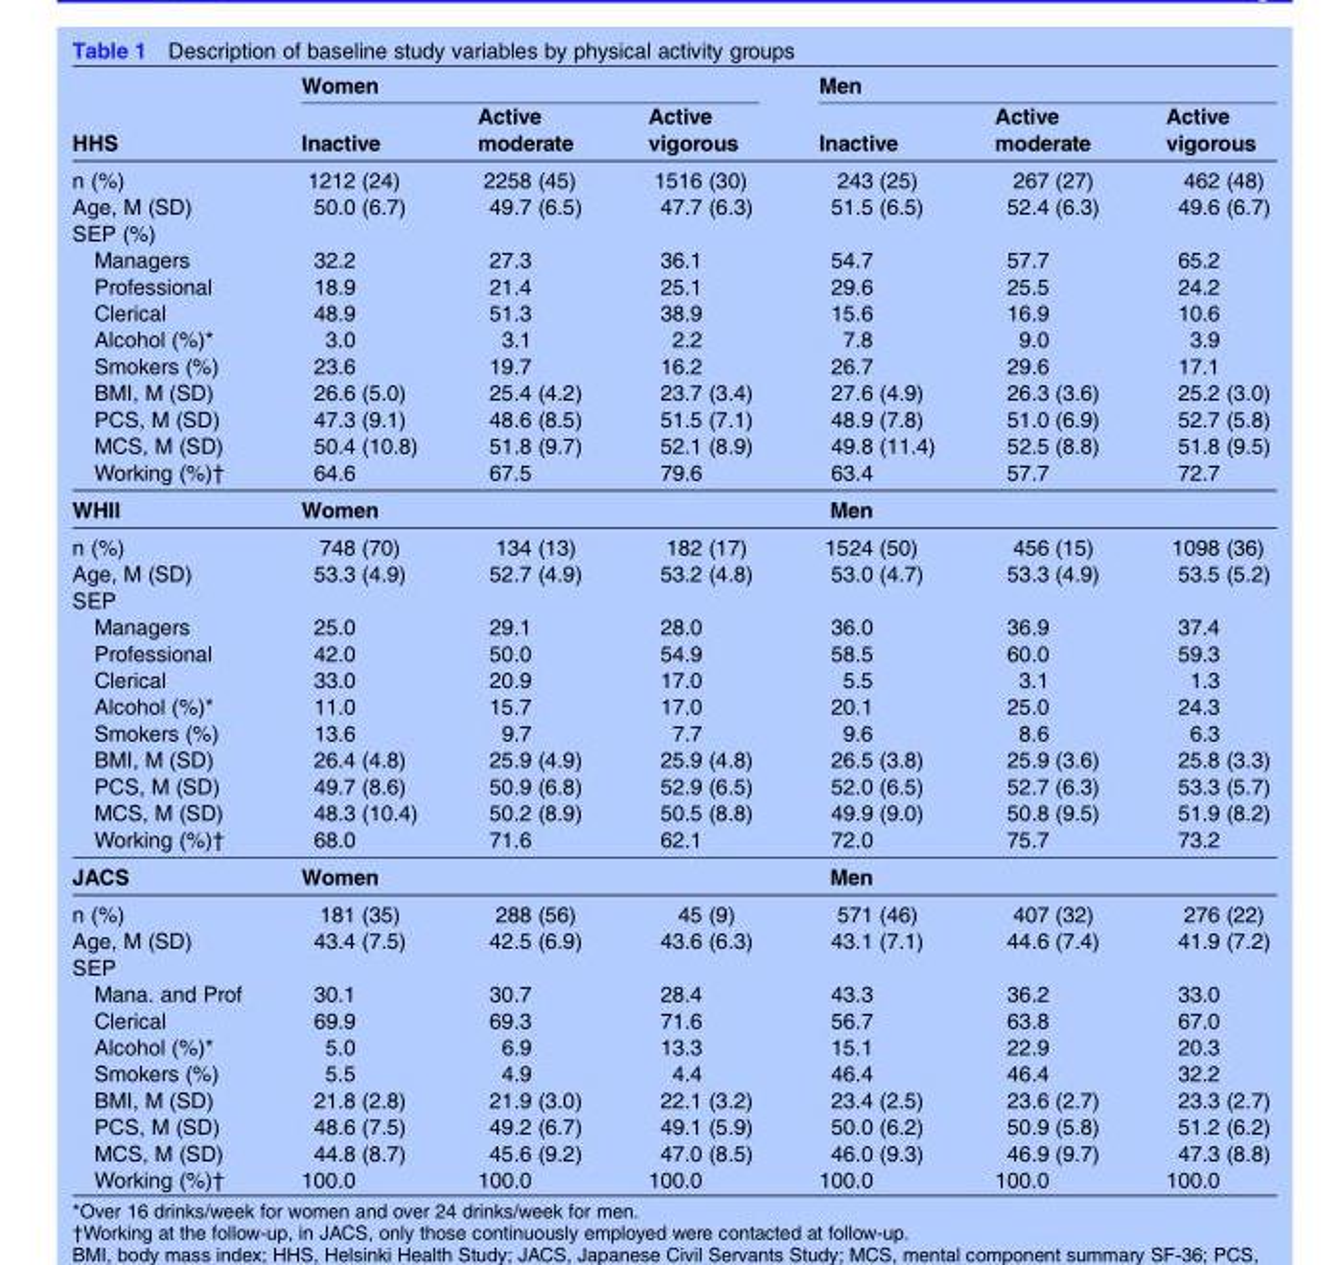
<table><thead><tr><td rowspan="2">HHS</td><td colspan="3">Women</td><td colspan="3">Men</td></tr><tr><td>Inactive</td><td>Active moderate</td><td>Active vigorous</td><td>Inactive</td><td>Active moderate</td><td>Active vigorous</td></tr></thead><tbody><tr><td>n (%)</td><td>1212 (24)</td><td>2258 (45)</td><td>1516 (30)</td><td>243 (25)</td><td>267 (27)</td><td>462 (48)</td></tr><tr><td>Age, M (SD)</td><td>50.0 (6.7)</td><td>49.7 (6.5)</td><td>47.7 (6.3)</td><td>51.5 (6.5)</td><td>52.4 (6.3)</td><td>49.6 (6.7)</td></tr><tr><td colspan="7">SEP (%)</td></tr><tr><td>Managers</td><td>32.2</td><td>27.3</td><td>36.1</td><td>54.7</td><td>57.7</td><td>65.2</td></tr><tr><td>Professional</td><td>18.9</td><td>21.4</td><td>25.1</td><td>29.6</td><td>25.5</td><td>24.2</td></tr><tr><td>Clerical</td><td>48.9</td><td>51.3</td><td>38.9</td><td>15.6</td><td>16.9</td><td>10.6</td></tr><tr><td>Alcohol (%)*</td><td>3.0</td><td>3.1</td><td>2.2</td><td>7.8</td><td>9.0</td><td>3.9</td></tr><tr><td>Smokers (%)</td><td>23.6</td><td>19.7</td><td>16.2</td><td>26.7</td><td>29.6</td><td>17.1</td></tr><tr><td>BMI, M (SD)</td><td>26.6 (5.0)</td><td>25.4 (4.2)</td><td>23.7 (3.4)</td><td>27.6 (4.9)</td><td>26.3 (3.6)</td><td>25.2 (3.0)</td></tr><tr><td>PCS, M (SD)</td><td>47.3 (9.1)</td><td>48.6 (8.5)</td><td>51.5 (7.1)</td><td>48.9 (7.8)</td><td>51.0 (6.9)</td><td>52.7 (5.8)</td></tr><tr><td>MCS, M (SD)</td><td>50.4 (10.8)</td><td>51.8 (9.7)</td><td>52.1 (8.9)</td><td>49.8 (11.4)</td><td>52.5 (8.8)</td><td>51.8 (9.5)</td></tr><tr><td>Working (%)†</td><td>64.6</td><td>67.5</td><td>79.6</td><td>63.4</td><td>57.7</td><td>72.7</td></tr><tr><td>WHII</td><td>Women</td><td></td><td></td><td>Men</td><td></td><td></td></tr><tr><td>n (%)</td><td>748 (70)</td><td>134 (13)</td><td>182 (17)</td><td>1524 (50)</td><td>456 (15)</td><td>1098 (36)</td></tr><tr><td>Age, M (SD)</td><td>53.3 (4.9)</td><td>52.7 (4.9)</td><td>53.2 (4.8)</td><td>53.0 (4.7)</td><td>53.3 (4.9)</td><td>53.5 (5.2)</td></tr><tr><td colspan="7">SEP</td></tr><tr><td>Managers</td><td>25.0</td><td>29.1</td><td>28.0</td><td>36.0</td><td>36.9</td><td>37.4</td></tr><tr><td>Professional</td><td>42.0</td><td>50.0</td><td>54.9</td><td>58.5</td><td>60.0</td><td>59.3</td></tr><tr><td>Clerical</td><td>33.0</td><td>20.9</td><td>17.0</td><td>5.5</td><td>3.1</td><td>1.3</td></tr><tr><td>Alcohol (%)*</td><td>11.0</td><td>15.7</td><td>17.0</td><td>20.1</td><td>25.0</td><td>24.3</td></tr><tr><td>Smokers (%)</td><td>13.6</td><td>9.7</td><td>7.7</td><td>9.6</td><td>8.6</td><td>6.3</td></tr><tr><td>BMI, M (SD)</td><td>26.4 (4.8)</td><td>25.9 (4.9)</td><td>25.9 (4.8)</td><td>26.5 (3.8)</td><td>25.9 (3.6)</td><td>25.8 (3.3)</td></tr><tr><td>PCS, M (SD)</td><td>49.7 (8.6)</td><td>50.9 (6.8)</td><td>52.9 (6.5)</td><td>52.0 (6.5)</td><td>52.7 (6.3)</td><td>53.3 (5.7)</td></tr><tr><td>MCS, M (SD)</td><td>48.3 (10.4)</td><td>50.2 (8.9)</td><td>50.5 (8.8)</td><td>49.9 (9.0)</td><td>50.8 (9.5)</td><td>51.9 (8.2)</td></tr><tr><td>Working (%)†</td><td>68.0</td><td>71.6</td><td>62.1</td><td>72.0</td><td>75.7</td><td>73.2</td></tr><tr><td>JACS</td><td>Women</td><td></td><td></td><td>Men</td><td></td><td></td></tr><tr><td>n (%)</td><td>181 (35)</td><td>288 (56)</td><td>45 (9)</td><td>571 (46)</td><td>407 (32)</td><td>276 (22)</td></tr><tr><td>Age, M (SD)</td><td>43.4 (7.5)</td><td>42.5 (6.9)</td><td>43.6 (6.3)</td><td>43.1 (7.1)</td><td>44.6 (7.4)</td><td>41.9 (7.2)</td></tr><tr><td colspan="7">SEP</td></tr><tr><td>Mana. and Prof</td><td>30.1</td><td>30.7</td><td>28.4</td><td>43.3</td><td>36.2</td><td>33.0</td></tr><tr><td>Clerical</td><td>69.9</td><td>69.3</td><td>71.6</td><td>56.7</td><td>63.8</td><td>67.0</td></tr><tr><td>Alcohol (%)*</td><td>5.0</td><td>6.9</td><td>13.3</td><td>15.1</td><td>22.9</td><td>20.3</td></tr><tr><td>Smokers (%)</td><td>5.5</td><td>4.9</td><td>4.4</td><td>46.4</td><td>46.4</td><td>32.2</td></tr><tr><td>BMI, M (SD)</td><td>21.8 (2.8)</td><td>21.9 (3.0)</td><td>22.1 (3.2)</td><td>23.4 (2.5)</td><td>23.6 (2.7)</td><td>23.3 (2.7)</td></tr><tr><td>PCS, M (SD)</td><td>48.6 (7.5)</td><td>49.2 (6.7)</td><td>49.1 (5.9)</td><td>50.0 (6.2)</td><td>50.9 (5.8)</td><td>51.2 (6.2)</td></tr><tr><td>MCS, M (SD)</td><td>44.8 (8.7)</td><td>45.6 (9.2)</td><td>47.0 (8.5)</td><td>46.0 (9.3)</td><td>46.9 (9.7)</td><td>47.3 (8.8)</td></tr><tr><td>Working (%)†</td><td>100.0</td><td>100.0</td><td>100.0</td><td>100.0</td><td>100.0</td><td>100.0</td></tr></tbody></table>